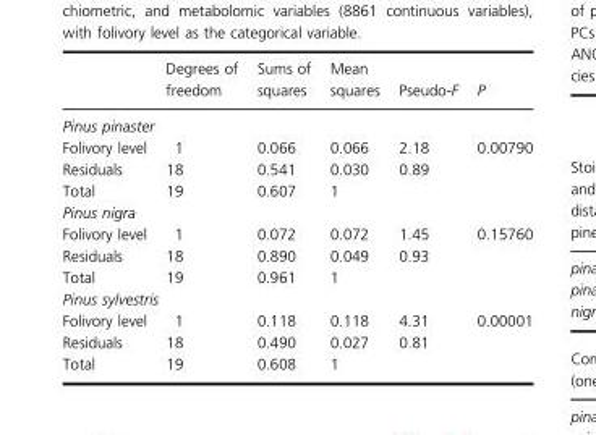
<table><thead><tr><td></td><td>Degrees of freedom</td><td>Sums of squares</td><td>Mean squares</td><td>Pseudo-F</td><td>P</td></tr></thead><tbody><tr><td colspan="6">Pinus pinaster</td></tr><tr><td>Folivory level</td><td>1</td><td>0.066</td><td>0.066</td><td>2.18</td><td rowspan="3">0.00790</td></tr><tr><td>Residuals</td><td>18</td><td>0.541</td><td>0.030</td><td>0.89</td></tr><tr><td>Total</td><td>19</td><td>0.607</td><td>1</td><td></td></tr><tr><td colspan="6">Pinus nigra</td></tr><tr><td>Folivory level</td><td>1</td><td>0.072</td><td>0.072</td><td>1.45</td><td rowspan="3">0.15760</td></tr><tr><td>Residuals</td><td>18</td><td>0.890</td><td>0.049</td><td>0.93</td></tr><tr><td>Total</td><td>19</td><td>0.961</td><td>1</td><td></td></tr><tr><td colspan="6">Pinus sylvestris</td></tr><tr><td>Folivory level</td><td>1</td><td>0.118</td><td>0.118</td><td>4.31</td><td rowspan="3">0.00001</td></tr><tr><td>Residuals</td><td>18</td><td>0.490</td><td>0.027</td><td>0.81</td></tr><tr><td>Total</td><td>19</td><td>0.608</td><td>1</td><td></td></tr></tbody></table>